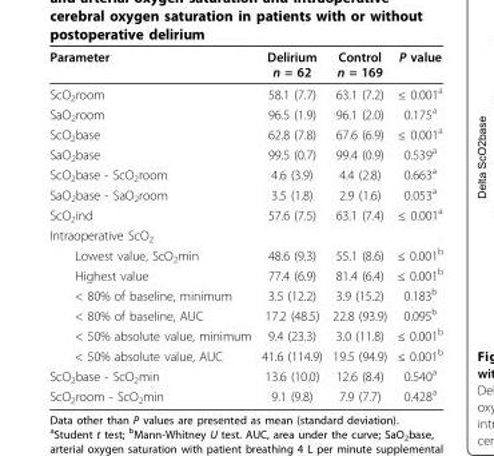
<table><thead><tr><td>Parameter</td><td>Delirium n = 62</td><td>Control n = 169</td><td>P value</td></tr></thead><tbody><tr><td>ScO<sub>2</sub>room</td><td>58.1 (7.7)</td><td>63.1 (7.2)</td><td>≤ 0.001<sup>a</sup></td></tr><tr><td>SaO<sub>2</sub>room</td><td>96.5 (1.9)</td><td>96.1 (2.0)</td><td>0.175<sup>a</sup></td></tr><tr><td>ScO<sub>2</sub>base</td><td>62.8 (7.8)</td><td>67.6 (6.9)</td><td>≤ 0.001<sup>a</sup></td></tr><tr><td>SaO<sub>2</sub>base</td><td>99.5 (0.7)</td><td>99.4 (0.9)</td><td>0.539<sup>a</sup></td></tr><tr><td>ScO<sub>2</sub>base - ScO<sub>2</sub>room</td><td>4.6 (3.9)</td><td>4.4 (2.8)</td><td>0.663<sup>a</sup></td></tr><tr><td>SaO<sub>2</sub>base - SaO<sub>2</sub>room</td><td>3.5 (1.8)</td><td>2.9 (1.6)</td><td>0.053<sup>a</sup></td></tr><tr><td>ScO<sub>2</sub>ind</td><td>57.6 (7.5)</td><td>63.1 (7.4)</td><td>≤ 0.001<sup>a</sup></td></tr><tr><td colspan="4">Intraoperative ScO<sub>2</sub></td></tr><tr><td>Lowest value, ScO<sub>2</sub>min</td><td>48.6 (9.3)</td><td>55.1 (8.6)</td><td>≤ 0.001<sup>b</sup></td></tr><tr><td>Highest value</td><td>77.4 (6.9)</td><td>81.4 (6.4)</td><td>≤ 0.001<sup>b</sup></td></tr><tr><td>&lt; 80% of baseline, minimum</td><td>3.5 (12.2)</td><td>3.9 (15.2)</td><td>0.183<sup>b</sup></td></tr><tr><td>&lt; 80% of baseline, AUC</td><td>17.2 (48.5)</td><td>22.8 (93.9)</td><td>0.095<sup>b</sup></td></tr><tr><td>&lt; 50% absolute value, minimum</td><td>9.4 (23.3)</td><td>3.0 (11.8)</td><td>≤ 0.001<sup>b</sup></td></tr><tr><td>&lt; 50% absolute value, AUC</td><td>41.6 (114.9)</td><td>19.5 (94.9)</td><td>≤ 0.001<sup>b</sup></td></tr><tr><td>ScO<sub>2</sub>base - ScO<sub>2</sub>min</td><td>13.6 (10.0)</td><td>12.6 (8.4)</td><td>0.540<sup>a</sup></td></tr><tr><td>ScO<sub>2</sub>room - ScO<sub>2</sub>min</td><td>9.1 (9.8)</td><td>7.9 (7.7)</td><td>0.428<sup>a</sup></td></tr></tbody></table>